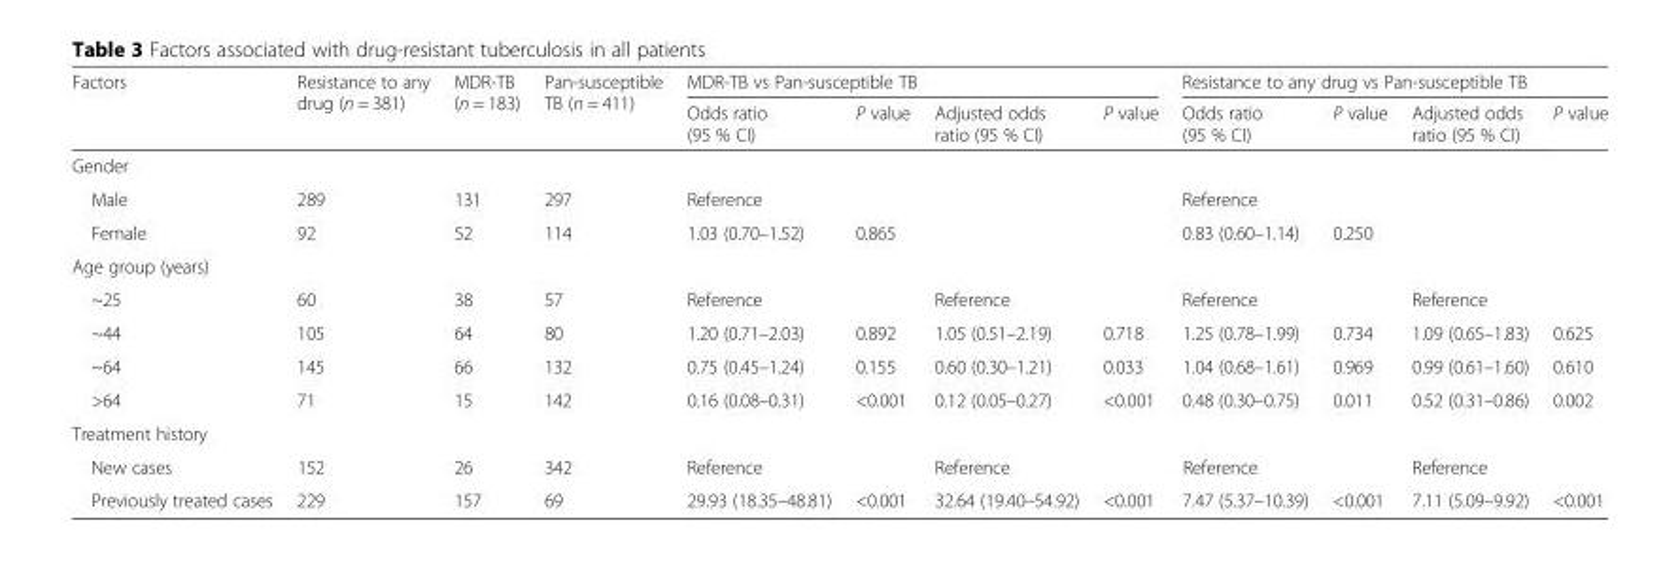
<table><thead><tr><td rowspan="2">Factors</td><td rowspan="2">Resistance to any drug (n = 381)</td><td rowspan="2">MDR-TB (n = 183)</td><td rowspan="2">Pan-susceptible TB (n = 411)</td><td colspan="4">MDR-TB vs Pan-susceptible TB</td><td colspan="4">Resistance to any drug vs Pan-susceptible TB</td></tr><tr><td>Odds ratio (95 % CI)</td><td>P value</td><td>Adjusted odds ratio (95 % CI)</td><td>P value</td><td>Odds ratio (95 % CI)</td><td>P value</td><td>Adjusted odds ratio (95 % CI)</td><td>P value</td></tr></thead><tbody><tr><td colspan="12">Gender</td></tr><tr><td>Male</td><td>289</td><td>131</td><td>297</td><td>Reference</td><td></td><td></td><td></td><td>Reference</td><td></td><td></td><td></td></tr><tr><td>Female</td><td>92</td><td>52</td><td>114</td><td>1.03 (0.70–1.52)</td><td>0.865</td><td></td><td></td><td>0.83 (0.60–1.14)</td><td>0.250</td><td></td><td></td></tr><tr><td colspan="12">Age group (years)</td></tr><tr><td>~25</td><td>60</td><td>38</td><td>57</td><td>Reference</td><td></td><td>Reference</td><td></td><td>Reference</td><td></td><td>Reference</td><td></td></tr><tr><td>~44</td><td>105</td><td>64</td><td>80</td><td>1.20 (0.71–2.03)</td><td>0.892</td><td>1.05 (0.51–2.19)</td><td>0.718</td><td>1.25 (0.78–1.99)</td><td>0.734</td><td>1.09 (0.65–1.83)</td><td>0.625</td></tr><tr><td>~64</td><td>145</td><td>66</td><td>132</td><td>0.75 (0.45–1.24)</td><td>0.155</td><td>0.60 (0.30–1.21)</td><td>0.033</td><td>1.04 (0.68–1.61)</td><td>0.969</td><td>0.99 (0.61–1.60)</td><td>0.610</td></tr><tr><td>&gt;64</td><td>71</td><td>15</td><td>142</td><td>0.16 (0.08–0.31)</td><td>&lt;0.001</td><td>0.12 (0.05–0.27)</td><td>&lt;0.001</td><td>0.48 (0.30–0.75)</td><td>0.011</td><td>0.52 (0.31–0.86)</td><td>0.002</td></tr><tr><td colspan="12">Treatment history</td></tr><tr><td>New cases</td><td>152</td><td>26</td><td>342</td><td>Reference</td><td></td><td>Reference</td><td></td><td>Reference</td><td></td><td>Reference</td><td></td></tr><tr><td>Previously treated cases</td><td>229</td><td>157</td><td>69</td><td>29.93 (18.35–48.81)</td><td>&lt;0.001</td><td>32.64 (19.40–54.92)</td><td>&lt;0.001</td><td>7.47 (5.37–10.39)</td><td>&lt;0.001</td><td>7.11 (5.09–9.92)</td><td>&lt;0.001</td></tr></tbody></table>